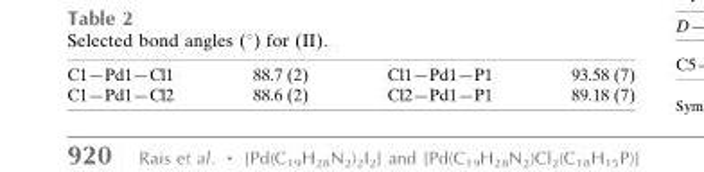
<table><tbody><tr><td>C1—Pd1—Cl1</td><td>88.7 (2)</td><td>Cl1—Pd1—P1</td><td>93.58 (7)</td></tr><tr><td>C1—Pd1—Cl2</td><td>88.6 (2)</td><td>Cl2—Pd1—P1</td><td>89.18 (7)</td></tr></tbody></table>